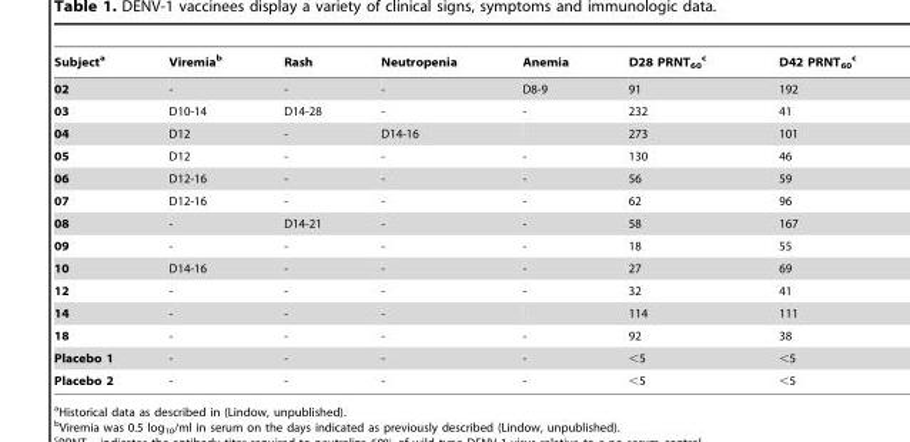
<table><thead><tr><td>Subject<sup>a</sup></td><td>Viremia<sup>b</sup></td><td>Rash</td><td>Neutropenia</td><td>Anemia</td><td>D28 PRNT<sub>60</sub> c</td><td>D42 PRNT<sub>60</sub> c</td></tr></thead><tbody><tr><td>02</td><td>-</td><td>-</td><td>-</td><td>D8-9</td><td>91</td><td>192</td></tr><tr><td>03</td><td>D10-14</td><td>D14-28</td><td>-</td><td>-</td><td>232</td><td>41</td></tr><tr><td>04</td><td>D12</td><td>-</td><td>D14-16</td><td></td><td>273</td><td>101</td></tr><tr><td>05</td><td>D12</td><td>-</td><td>-</td><td>-</td><td>130</td><td>46</td></tr><tr><td>06</td><td>D12-16</td><td>-</td><td>-</td><td>-</td><td>56</td><td>59</td></tr><tr><td>07</td><td>D12-16</td><td>-</td><td>-</td><td>-</td><td>62</td><td>96</td></tr><tr><td>08</td><td>-</td><td>D14-21</td><td>-</td><td>-</td><td>58</td><td>167</td></tr><tr><td>09</td><td>-</td><td>-</td><td>-</td><td>-</td><td>18</td><td>55</td></tr><tr><td>10</td><td>D14-16</td><td>-</td><td>-</td><td>-</td><td>27</td><td>69</td></tr><tr><td>12</td><td>-</td><td>-</td><td>-</td><td>-</td><td>32</td><td>41</td></tr><tr><td>14</td><td>-</td><td>-</td><td>-</td><td></td><td>114</td><td>111</td></tr><tr><td>18</td><td>-</td><td>-</td><td>-</td><td>-</td><td>92</td><td>38</td></tr><tr><td>Placebo 1</td><td>-</td><td>-</td><td>-</td><td>-</td><td>&lt;5</td><td>&lt;5</td></tr><tr><td>Placebo 2</td><td>-</td><td>-</td><td>-</td><td>-</td><td>&lt;5</td><td>&lt;5</td></tr></tbody></table>